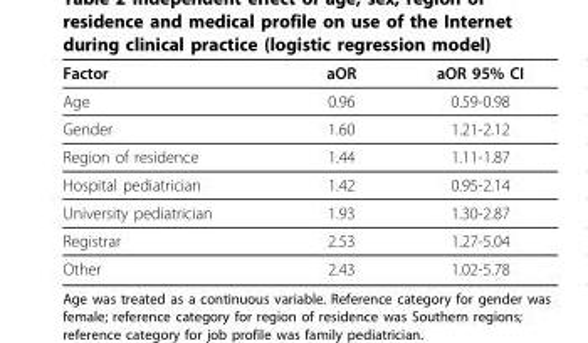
<table><thead><tr><td>Factor</td><td>aOR</td><td>aOR 95% CI</td></tr></thead><tbody><tr><td>Age</td><td>0.96</td><td>0.59-0.98</td></tr><tr><td>Gender</td><td>1.60</td><td>1.21-2.12</td></tr><tr><td>Region of residence</td><td>1.44</td><td>1.11-1.87</td></tr><tr><td>Hospital pediatrician</td><td>1.42</td><td>0.95-2.14</td></tr><tr><td>University pediatrician</td><td>1.93</td><td>1.30-2.87</td></tr><tr><td>Registrar</td><td>2.53</td><td>1.27-5.04</td></tr><tr><td>Other</td><td>2.43</td><td>1.02-5.78</td></tr></tbody></table>